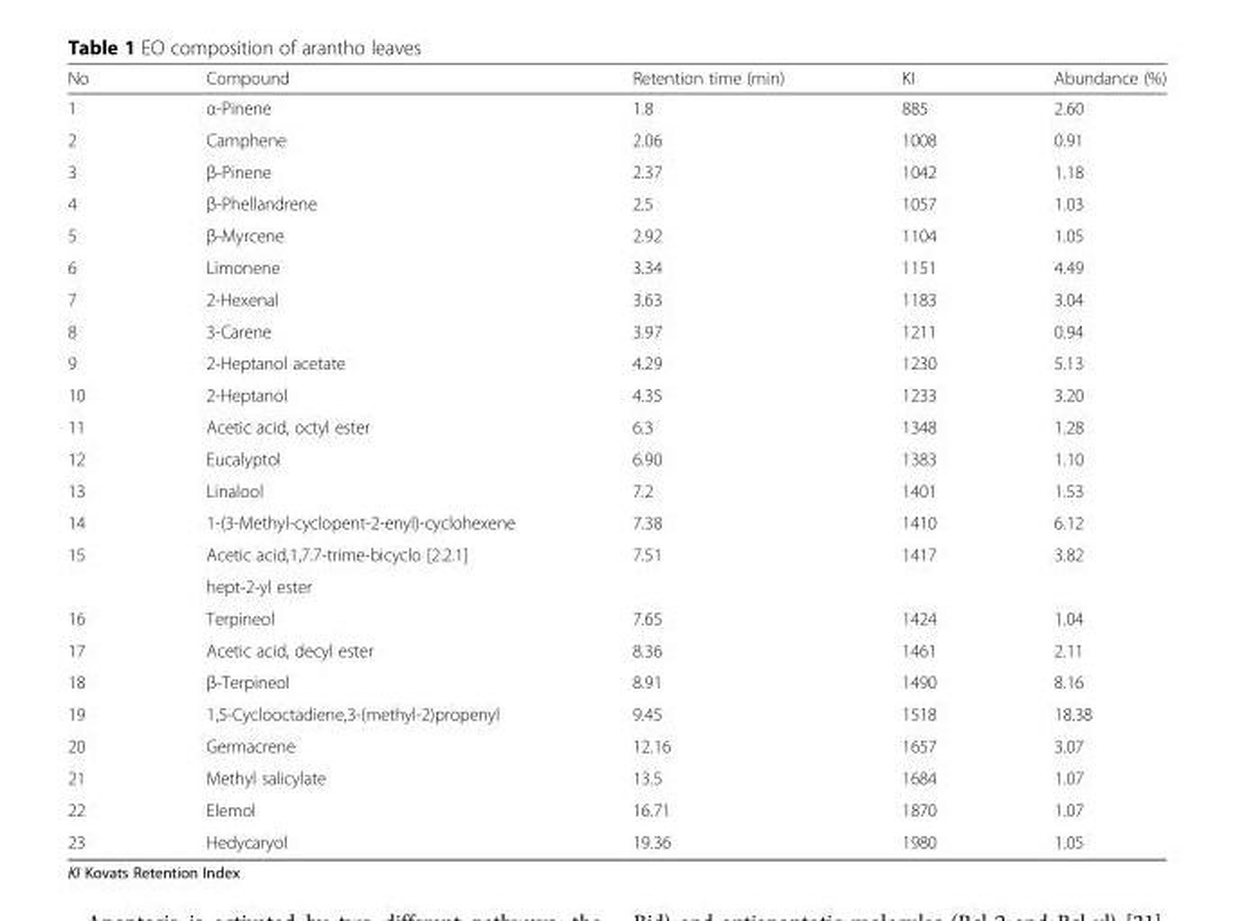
<table><thead><tr><td>No</td><td>Compound</td><td>Retention time (min)</td><td>KI</td><td>Abundance (%)</td></tr></thead><tbody><tr><td>1</td><td>α-Pinene</td><td>1.8</td><td>885</td><td>2.60</td></tr><tr><td>2</td><td>Camphene</td><td>2.06</td><td>1008</td><td>0.91</td></tr><tr><td>3</td><td>β-Pinene</td><td>2.37</td><td>1042</td><td>1.18</td></tr><tr><td>4</td><td>β-Phellandrene</td><td>2.5</td><td>1057</td><td>1.03</td></tr><tr><td>5</td><td>β-Myrcene</td><td>2.92</td><td>1104</td><td>1.05</td></tr><tr><td>6</td><td>Limonene</td><td>3.34</td><td>1151</td><td>4.49</td></tr><tr><td>7</td><td>2-Hexenal</td><td>3.63</td><td>1183</td><td>3.04</td></tr><tr><td>8</td><td>3-Carene</td><td>3.97</td><td>1211</td><td>0.94</td></tr><tr><td>9</td><td>2-Heptanol acetate</td><td>4.29</td><td>1230</td><td>5.13</td></tr><tr><td>10</td><td>2-Heptanol</td><td>4.35</td><td>1233</td><td>3.20</td></tr><tr><td>11</td><td>Acetic acid, octyl ester</td><td>6.3</td><td>1348</td><td>1.28</td></tr><tr><td>12</td><td>Eucalyptol</td><td>6.90</td><td>1383</td><td>1.10</td></tr><tr><td>13</td><td>Linalool</td><td>7.2</td><td>1401</td><td>1.53</td></tr><tr><td>14</td><td>1-(3-Methyl-cyclopent-2-enyl)-cyclohexene</td><td>7.38</td><td>1410</td><td>6.12</td></tr><tr><td rowspan="2">15</td><td>Acetic acid,1,7.7-trime-bicyclo [2.2.1]</td><td rowspan="2">7.51</td><td rowspan="2">1417</td><td rowspan="2">3.82</td></tr><tr><td>hept-2-yl ester</td></tr><tr><td>16</td><td>Terpineol</td><td>7.65</td><td>1424</td><td>1.04</td></tr><tr><td>17</td><td>Acetic acid, decyl ester</td><td>8.36</td><td>1461</td><td>2.11</td></tr><tr><td>18</td><td>β-Terpineol</td><td>8.91</td><td>1490</td><td>8.16</td></tr><tr><td>19</td><td>1,5-Cyclooctadiene,3-(methyl-2)propenyl</td><td>9.45</td><td>1518</td><td>18.38</td></tr><tr><td>20</td><td>Germacrene</td><td>12.16</td><td>1657</td><td>3.07</td></tr><tr><td>21</td><td>Methyl salicylate</td><td>13.5</td><td>1684</td><td>1.07</td></tr><tr><td>22</td><td>Elemol</td><td>16.71</td><td>1870</td><td>1.07</td></tr><tr><td>23</td><td>Hedycaryol</td><td>19.36</td><td>1980</td><td>1.05</td></tr></tbody></table>